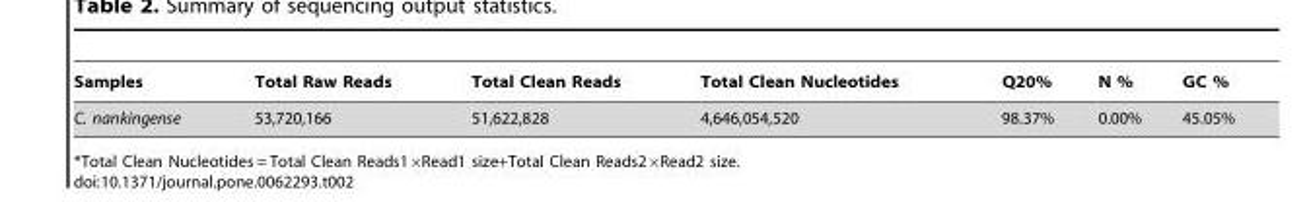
<table><thead><tr><td>Samples</td><td>Total Raw Reads</td><td>Total Clean Reads</td><td>Total Clean Nucleotides</td><td>Q20%</td><td>N %</td><td>GC %</td></tr></thead><tbody><tr><td>C. nankingense</td><td>53,720,166</td><td>51,622,828</td><td>4,646,054,520</td><td>98.37%</td><td>0.00%</td><td>45.05%</td></tr></tbody></table>